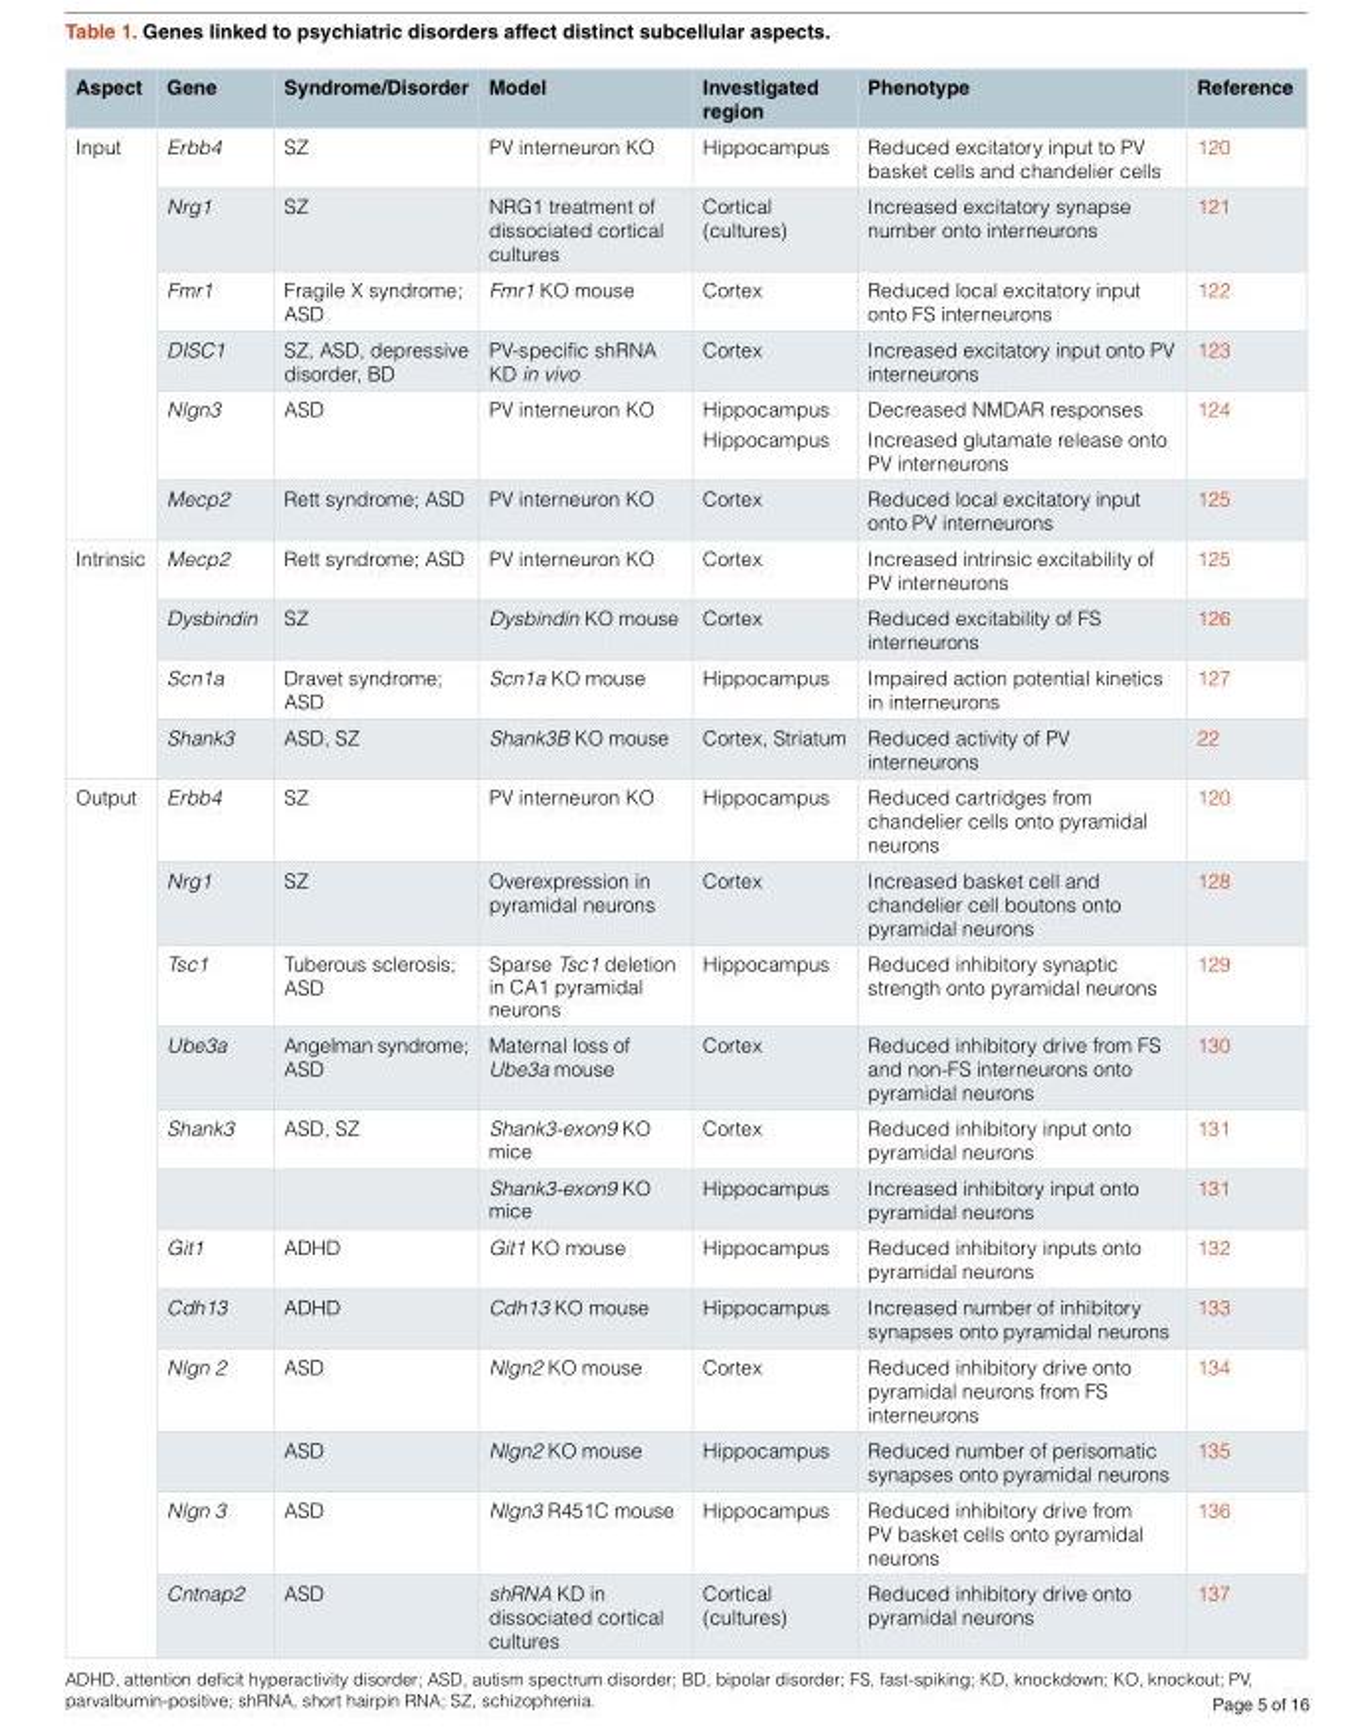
<table><thead><tr><td>Aspect</td><td>Gene</td><td>Syndrome/Disorder</td><td>Model</td><td>Investigated region</td><td>Phenotype</td><td>Reference</td></tr></thead><tbody><tr><td rowspan="6">Input</td><td>Erbb4</td><td>SZ</td><td>PV interneuron KO</td><td>Hippocampus</td><td>Reduced excitatory input to PV basket cells and chandelier cells</td><td>120</td></tr><tr><td>Nrg1</td><td>SZ</td><td>NRG1 treatment of dissociated cortical cultures</td><td>Cortical (cultures)</td><td>Increased excitatory synapse number onto interneurons</td><td>121</td></tr><tr><td>Fmr1</td><td>Fragile X syndrome; ASD</td><td>Fmr1 KO mouse</td><td>Cortex</td><td>Reduced local excitatory input onto FS interneurons</td><td>122</td></tr><tr><td>DISC1</td><td>SZ, ASD, depressive disorder, BD</td><td>PV-specific shRNA KD in vivo</td><td>Cortex</td><td>Increased excitatory input onto PV interneurons</td><td>123</td></tr><tr><td>Nlgn3</td><td>ASD</td><td>PV interneuron KO</td><td>Hippocampus Hippocampus</td><td>Decreased NMDAR responses Increased glutamate release onto PV interneurons</td><td>124</td></tr><tr><td>Mecp2</td><td>Rett syndrome; ASD</td><td>PV interneuron KO</td><td>Cortex</td><td>Reduced local excitatory input onto PV interneurons</td><td>125</td></tr><tr><td rowspan="4">Intrinsic</td><td>Mecp2</td><td>Rett syndrome; ASD</td><td>PV interneuron KO</td><td>Cortex</td><td>Increased intrinsic excitability of PV interneurons</td><td>125</td></tr><tr><td>Dysbindin</td><td>SZ</td><td>Dysbindin KO mouse</td><td>Cortex</td><td>Reduced excitability of FS interneurons</td><td>126</td></tr><tr><td>Scn1a</td><td>Dravet syndrome; ASD</td><td>Scn1a KO mouse</td><td>Hippocampus</td><td>Impaired action potential kinetics in interneurons</td><td>127</td></tr><tr><td>Shank3</td><td>ASD, SZ</td><td>Shank3B KO mouse</td><td>Cortex, Striatum</td><td>Reduced activity of PV interneurons</td><td>22</td></tr><tr><td rowspan="12">Output</td><td>Erbb4</td><td>SZ</td><td>PV interneuron KO</td><td>Hippocampus</td><td>Reduced cartridges from chandelier cells onto pyramidal neurons</td><td>120</td></tr><tr><td>Nrg1</td><td>SZ</td><td>Overexpression in pyramidal neurons</td><td>Cortex</td><td>Increased basket cell and chandelier cell boutons onto pyramidal neurons</td><td>128</td></tr><tr><td>Tsc1</td><td>Tuberous sclerosis; ASD</td><td>Sparse Tsc1 deletion in CA1 pyramidal neurons</td><td>Hippocampus</td><td>Reduced inhibitory synaptic strength onto pyramidal neurons</td><td>129</td></tr><tr><td>Ube3a</td><td>Angelman syndrome; ASD</td><td>Maternal loss of Ube3a mouse</td><td>Cortex</td><td>Reduced inhibitory drive from FS and non-FS interneurons onto pyramidal neurons</td><td>130</td></tr><tr><td>Shank3</td><td>ASD, SZ</td><td>Shank3-exon9 KO mice</td><td>Cortex</td><td>Reduced inhibitory input onto pyramidal neurons</td><td>131</td></tr><tr><td></td><td></td><td>Shank3-exon9 KO mice</td><td>Hippocampus</td><td>Increased inhibitory input onto pyramidal neurons</td><td>131</td></tr><tr><td>Git1</td><td>ADHD</td><td>Git1 KO mouse</td><td>Hippocampus</td><td>Reduced inhibitory inputs onto pyramidal neurons</td><td>132</td></tr><tr><td>Cdh13</td><td>ADHD</td><td>Cdh13 KO mouse</td><td>Hippocampus</td><td>Increased number of inhibitory synapses onto pyramidal neurons</td><td>133</td></tr><tr><td>Nlgn 2</td><td>ASD</td><td>Nlgn2 KO mouse</td><td>Cortex</td><td>Reduced inhibitory drive onto pyramidal neurons from FS interneurons</td><td>134</td></tr><tr><td></td><td>ASD</td><td>Nlgn2 KO mouse</td><td>Hippocampus</td><td>Reduced number of perisomatic synapses onto pyramidal neurons</td><td>135</td></tr><tr><td>Nlgn 3</td><td>ASD</td><td>Nlgn3 R451C mouse</td><td>Hippocampus</td><td>Reduced inhibitory drive from PV basket cells onto pyramidal neurons</td><td>136</td></tr><tr><td>Cntnap2</td><td>ASD</td><td>shRNA KD in dissociated cortical cultures</td><td>Cortical (cultures)</td><td>Reduced inhibitory drive onto pyramidal neurons</td><td>137</td></tr></tbody></table>